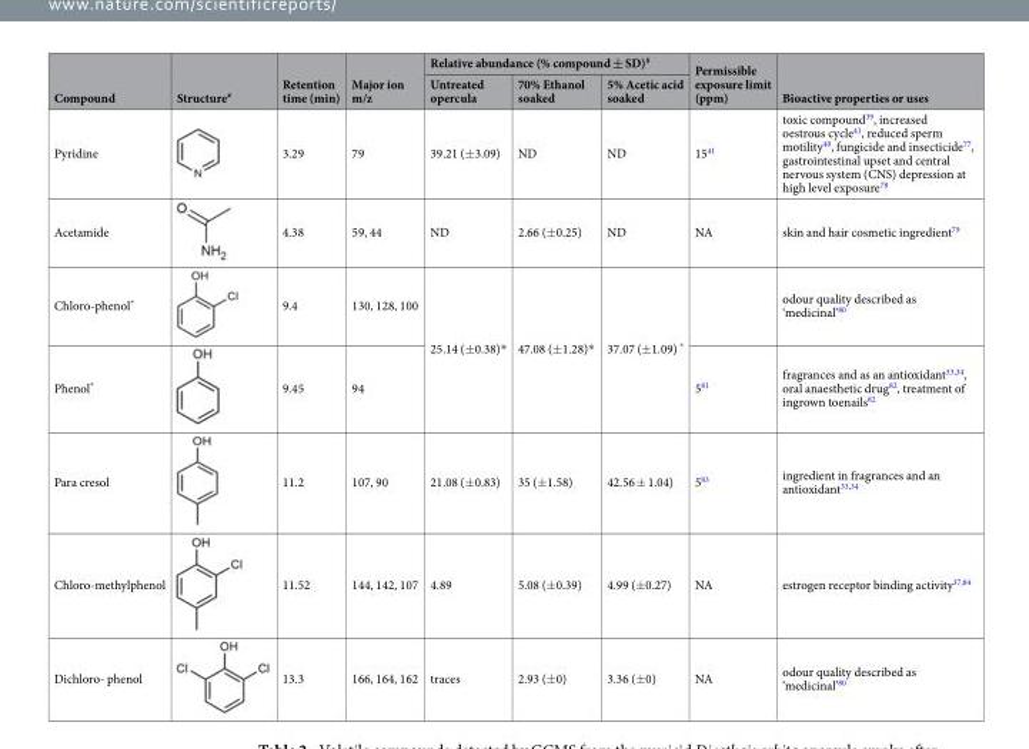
<table><thead><tr><td rowspan="2">Compound</td><td rowspan="2">Structure<sup>#</sup></td><td rowspan="2">Retention time (min)</td><td rowspan="2">Major ion m/z</td><td colspan="3">Relative abundance (% compound ± SD)<sup>$</sup></td><td rowspan="2">Permissible exposure limit (ppm)</td><td rowspan="2">Bioactive properties or uses</td></tr><tr><td>Untreated opercula</td><td>70% Ethanol soaked</td><td>5% Acetic acid soaked</td></tr></thead><tbody><tr><td>Pyridine</td><td></td><td>3.29</td><td>79</td><td>39.21 (±3.09)</td><td>ND</td><td>ND</td><td>15<sup>41</sup></td><td>toxic compound<sup>39</sup>, increased oestrous cycle<sup>41</sup>, reduced sperm motility<sup>40</sup>, fungicide and insecticide<sup>77</sup>, gastrointestinal upset and central nervous system (CNS) depression at high level exposure<sup>78</sup></td></tr><tr><td>Acetamide</td><td></td><td>4.38</td><td>59, 44</td><td>ND</td><td>2.66 (±0.25)</td><td>ND</td><td>NA</td><td>skin and hair cosmetic ingredient<sup>79</sup></td></tr><tr><td>Chloro-phenol*</td><td></td><td>9.4</td><td>130, 128, 100</td><td rowspan="2">25.14 (±0.38)*</td><td rowspan="2">47.08 (±1.28)*</td><td rowspan="2">37.07 (±1.09) *</td><td></td><td>odour quality described as ‘medicinal’<sup>80</sup></td></tr><tr><td>Phenol*</td><td></td><td>9.45</td><td>94</td><td>5<sup>81</sup></td><td>fragrances and as an antioxidant<sup>33,34</sup>, oral anaesthetic drug<sup>82</sup>, treatment of ingrown toenails<sup>82</sup></td></tr><tr><td>Para cresol</td><td></td><td>11.2</td><td>107, 90</td><td>21.08 (±0.83)</td><td>35 (±1.58)</td><td>42.56 ± 1.04)</td><td>5<sup>83</sup></td><td>ingredient in fragrances and an antioxidant<sup>33,34</sup></td></tr><tr><td>Chloro-methylphenol</td><td></td><td>11.52</td><td>144, 142, 107</td><td>4.89</td><td>5.08 (±0.39)</td><td>4.99 (±0.27)</td><td>NA</td><td>estrogen receptor binding activity<sup>37,84</sup></td></tr><tr><td>Dichloro- phenol</td><td></td><td>13.3</td><td>166, 164, 162</td><td>traces</td><td>2.93 (±0)</td><td>3.36 (±0)</td><td>NA</td><td>odour quality described as ‘medicinal’<sup>80</sup></td></tr></tbody></table>